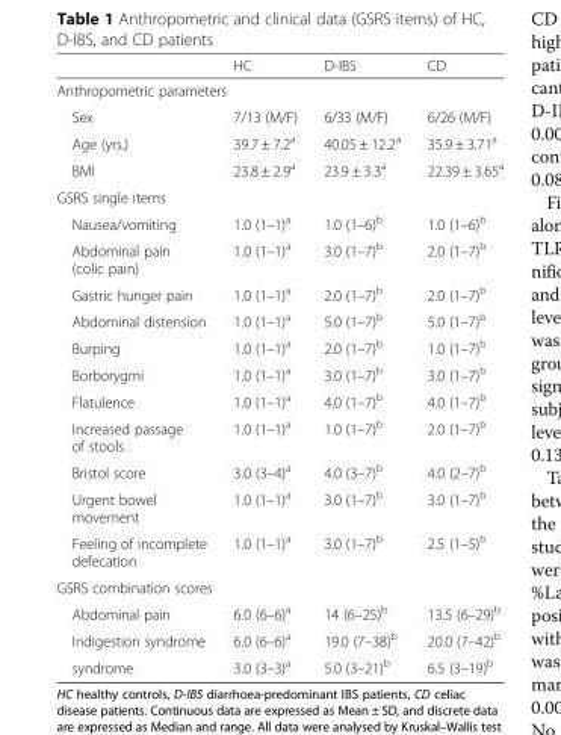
<table><thead><tr><td></td><td>HC</td><td>D-IBS</td><td>CD</td></tr></thead><tbody><tr><td colspan="4">Anthropometric parameters</td></tr><tr><td>Sex</td><td>7/13 (M/F)</td><td>6/33 (M/F)</td><td>6/26 (M/F)</td></tr><tr><td>Age (yrs.)</td><td>39.7 ± 7.2<sup>a</sup></td><td>40.05 ± 12.2<sup>a</sup></td><td>35.9 ± 3.71<sup>a</sup></td></tr><tr><td>BMI</td><td>23.8 ± 2.9<sup>a</sup></td><td>23.9 ± 3.3<sup>a</sup></td><td>22.39 ± 3.65<sup>a</sup></td></tr><tr><td colspan="4">GSRS single items</td></tr><tr><td>Nausea/vomiting</td><td>1.0 (1–1)<sup>a</sup></td><td>1.0 (1–6)<sup>b</sup></td><td>1.0 (1–6)<sup>b</sup></td></tr><tr><td>Abdominal pain (colic pain)</td><td>1.0 (1–1)<sup>a</sup></td><td>3.0 (1–7)<sup>b</sup></td><td>2.0 (1–7)<sup>b</sup></td></tr><tr><td>Gastric hunger pain</td><td>1.0 (1–1)<sup>a</sup></td><td>2.0 (1–7)<sup>b</sup></td><td>2.0 (1–7)<sup>b</sup></td></tr><tr><td>Abdominal distension</td><td>1.0 (1–1)<sup>a</sup></td><td>5.0 (1–7)<sup>b</sup></td><td>5.0 (1–7)<sup>b</sup></td></tr><tr><td>Burping</td><td>1.0 (1–1)<sup>a</sup></td><td>2.0 (1–7)<sup>b</sup></td><td>1.0 (1–7)<sup>b</sup></td></tr><tr><td>Borborygmi</td><td>1.0 (1–1)<sup>a</sup></td><td>3.0 (1–7)<sup>b</sup></td><td>3.0 (1–7)<sup>b</sup></td></tr><tr><td>Flatulence</td><td>1.0 (1–1)<sup>a</sup></td><td>4.0 (1–7)<sup>b</sup></td><td>4.0 (1–7)<sup>b</sup></td></tr><tr><td>Increased passage of stools</td><td>1.0 (1–1)<sup>a</sup></td><td>1.0 (1–7)<sup>b</sup></td><td>2.0 (1–7)<sup>b</sup></td></tr><tr><td>Bristol score</td><td>3.0 (3–4)<sup>a</sup></td><td>4.0 (3–7)<sup>b</sup></td><td>4.0 (2–7)<sup>b</sup></td></tr><tr><td>Urgent bowel movement</td><td>1.0 (1–1)<sup>a</sup></td><td>3.0 (1–7)<sup>b</sup></td><td>3.0 (1–7)<sup>b</sup></td></tr><tr><td>Feeling of incomplete defecation</td><td>1.0 (1–1)<sup>a</sup></td><td>3.0 (1–7)<sup>b</sup></td><td>2.5 (1–5)<sup>b</sup></td></tr><tr><td colspan="4">GSRS combination scores</td></tr><tr><td>Abdominal pain</td><td>6.0 (6–6)<sup>a</sup></td><td>14 (6–25)<sup>b</sup></td><td>13.5 (6–29)<sup>b</sup></td></tr><tr><td>Indigestion syndrome</td><td>6.0 (6–6)<sup>a</sup></td><td>19.0 (7–38)<sup>b</sup></td><td>20.0 (7–42)<sup>b</sup></td></tr><tr><td>syndrome</td><td>3.0 (3–3)<sup>a</sup></td><td>5.0 (3–21)<sup>b</sup></td><td>6.5 (3–19)<sup>b</sup></td></tr></tbody></table>